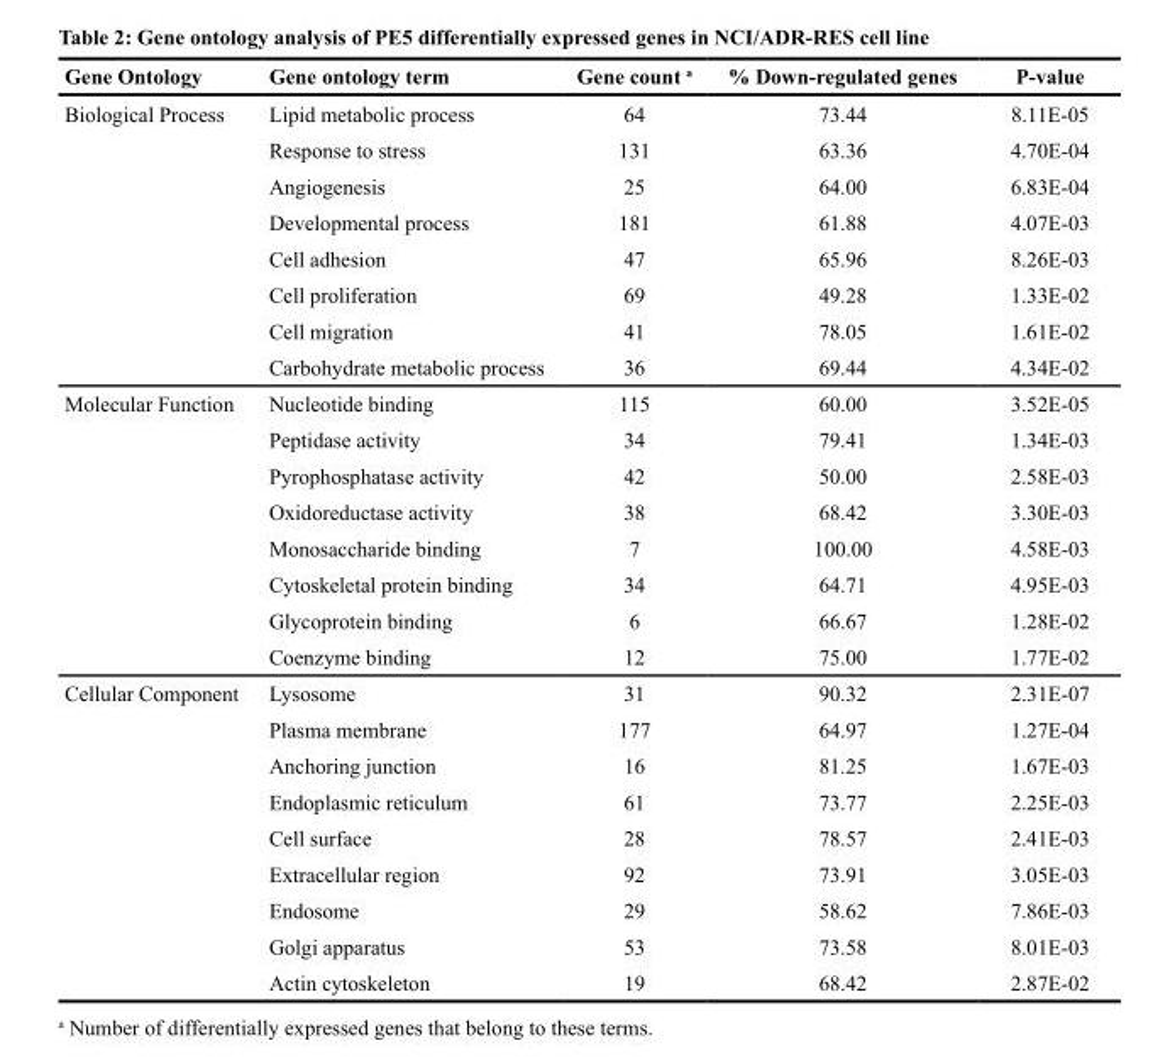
<table><thead><tr><td>Gene Ontology</td><td>Gene ontology term</td><td>Gene count <sup>a</sup></td><td>% Down-regulated genes</td><td>P-value</td></tr></thead><tbody><tr><td rowspan="8">Biological Process</td><td>Lipid metabolic process</td><td>64</td><td>73.44</td><td>8.11E-05</td></tr><tr><td>Response to stress</td><td>131</td><td>63.36</td><td>4.70E-04</td></tr><tr><td>Angiogenesis</td><td>25</td><td>64.00</td><td>6.83E-04</td></tr><tr><td>Developmental process</td><td>181</td><td>61.88</td><td>4.07E-03</td></tr><tr><td>Cell adhesion</td><td>47</td><td>65.96</td><td>8.26E-03</td></tr><tr><td>Cell proliferation</td><td>69</td><td>49.28</td><td>1.33E-02</td></tr><tr><td>Cell migration</td><td>41</td><td>78.05</td><td>1.61E-02</td></tr><tr><td>Carbohydrate metabolic process</td><td>36</td><td>69.44</td><td>4.34E-02</td></tr><tr><td rowspan="8">Molecular Function</td><td>Nucleotide binding</td><td>115</td><td>60.00</td><td>3.52E-05</td></tr><tr><td>Peptidase activity</td><td>34</td><td>79.41</td><td>1.34E-03</td></tr><tr><td>Pyrophosphatase activity</td><td>42</td><td>50.00</td><td>2.58E-03</td></tr><tr><td>Oxidoreductase activity</td><td>38</td><td>68.42</td><td>3.30E-03</td></tr><tr><td>Monosaccharide binding</td><td>7</td><td>100.00</td><td>4.58E-03</td></tr><tr><td>Cytoskeletal protein binding</td><td>34</td><td>64.71</td><td>4.95E-03</td></tr><tr><td>Glycoprotein binding</td><td>6</td><td>66.67</td><td>1.28E-02</td></tr><tr><td>Coenzyme binding</td><td>12</td><td>75.00</td><td>1.77E-02</td></tr><tr><td rowspan="9">Cellular Component</td><td>Lysosome</td><td>31</td><td>90.32</td><td>2.31E-07</td></tr><tr><td>Plasma membrane</td><td>177</td><td>64.97</td><td>1.27E-04</td></tr><tr><td>Anchoring junction</td><td>16</td><td>81.25</td><td>1.67E-03</td></tr><tr><td>Endoplasmic reticulum</td><td>61</td><td>73.77</td><td>2.25E-03</td></tr><tr><td>Cell surface</td><td>28</td><td>78.57</td><td>2.41E-03</td></tr><tr><td>Extracellular region</td><td>92</td><td>73.91</td><td>3.05E-03</td></tr><tr><td>Endosome</td><td>29</td><td>58.62</td><td>7.86E-03</td></tr><tr><td>Golgi apparatus</td><td>53</td><td>73.58</td><td>8.01E-03</td></tr><tr><td>Actin cytoskeleton</td><td>19</td><td>68.42</td><td>2.87E-02</td></tr></tbody></table>